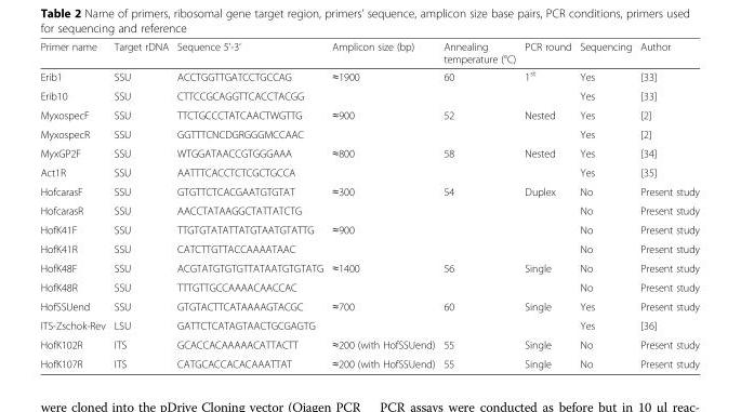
<table><thead><tr><td>Primer name</td><td>Target rDNA</td><td>Sequence 5’-3’</td><td>Amplicon size (bp)</td><td>Annealing temperature (°C)</td><td>PCR round</td><td>Sequencing</td><td>Author</td></tr></thead><tbody><tr><td>Erib1</td><td>SSU</td><td>ACCTGGTTGATCCTGCCAG</td><td rowspan="2">≈1900</td><td rowspan="2">60</td><td rowspan="2">1<sup>st</sup></td><td>Yes</td><td>[33]</td></tr><tr><td>Erib10</td><td>SSU</td><td>CTTCCGCAGGTTCACCTACGG</td><td>Yes</td><td>[33]</td></tr><tr><td>MyxospecF</td><td>SSU</td><td>TTCTGCCCTATCAACTWGTTG</td><td rowspan="2">≈900</td><td rowspan="2">52</td><td rowspan="2">Nested</td><td>Yes</td><td>[2]</td></tr><tr><td>MyxospecR</td><td>SSU</td><td>GGTTTCNCDGRGGGMCCAAC</td><td>Yes</td><td>[2]</td></tr><tr><td>MyxGP2F</td><td>SSU</td><td>WTGGATAACCGTGGGAAA</td><td rowspan="2">≈800</td><td rowspan="2">58</td><td rowspan="2">Nested</td><td>Yes</td><td>[34]</td></tr><tr><td>Act1R</td><td>SSU</td><td>AATTTCACCTCTCGCTGCCA</td><td>Yes</td><td>[35]</td></tr><tr><td>HofcarasF</td><td>SSU</td><td>GTGTTCTCACGAATGTGTAT</td><td rowspan="2">≈300</td><td rowspan="4">54</td><td rowspan="4">Duplex</td><td>No</td><td>Present study</td></tr><tr><td>HofcarasR</td><td>SSU</td><td>AACCTATAAGGCTATTATCTG</td><td>No</td><td>Present study</td></tr><tr><td>HofK41F</td><td>SSU</td><td>TTGTGTATATTATGTAATGTATTG</td><td rowspan="2">≈900</td><td>No</td><td>Present study</td></tr><tr><td>HofK41R</td><td>SSU</td><td>CATCTTGTTACCAAAATAAC</td><td>No</td><td>Present study</td></tr><tr><td>HofK48F</td><td>SSU</td><td>ACGTATGTGTGTTATAATGTGTATG</td><td rowspan="2">≈1400</td><td rowspan="2">56</td><td>Single</td><td>No</td><td>Present study</td></tr><tr><td>HofK48R</td><td>SSU</td><td>TTTGTTGCCAAAACAACCAC</td><td></td><td>No</td><td>Present study</td></tr><tr><td>HofSSUend</td><td>SSU</td><td>GTGTACTTCATAAAAGTACGC</td><td rowspan="2">≈700</td><td rowspan="2">60</td><td rowspan="2">Single</td><td>Yes</td><td>Present study</td></tr><tr><td>ITS-Zschok-Rev</td><td>LSU</td><td>GATTCTCATAGTAACTGCGAGTG</td><td>Yes</td><td>[36]</td></tr><tr><td>HofK102R</td><td>ITS</td><td>GCACCACAAAAACATTACTT</td><td>≈200 (with HofSSUend)</td><td>55</td><td>Single</td><td>No</td><td>Present study</td></tr><tr><td>HofK107R</td><td>ITS</td><td>CATGCACCACACAAATTAT</td><td>≈200 (with HofSSUend)</td><td>55</td><td>Single</td><td>No</td><td>Present study</td></tr></tbody></table>